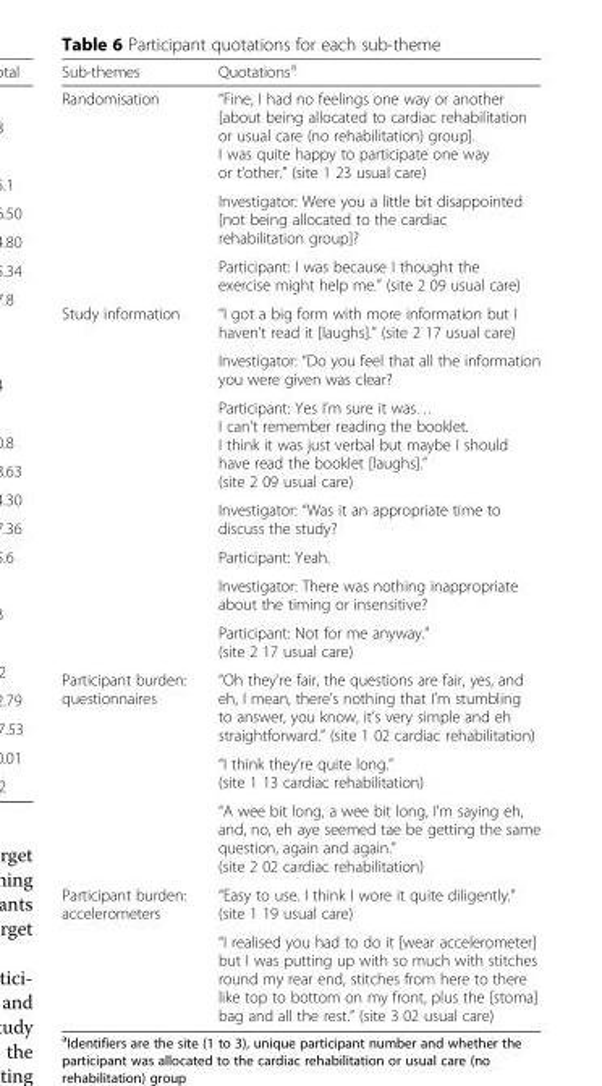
<table><thead><tr><td>Sub-themes</td><td>Quotations<sup>a</sup></td></tr></thead><tbody><tr><td rowspan="3">Randomisation</td><td>“Fine, I had no feelings one way or another [about being allocated to cardiac rehabilitation or usual care (no rehabilitation) group]. I was quite happy to participate one way or t’other.” (site 1 23 usual care)</td></tr><tr><td>Investigator: Were you a little bit disappointed [not being allocated to the cardiac rehabilitation group]?</td></tr><tr><td>Participant: I was because I thought the exercise might help me.” (site 2 09 usual care)</td></tr><tr><td rowspan="7">Study information</td><td>“I got a big form with more information but I haven’t read it [laughs].” (site 2 17 usual care)</td></tr><tr><td>Investigator: “Do you feel that all the information you were given was clear?</td></tr><tr><td>Participant: Yes I’m sure it was… I can’t remember reading the booklet. I think it was just verbal but maybe I should have read the booklet [laughs].” (site 2 09 usual care)</td></tr><tr><td>Investigator: “Was it an appropriate time to discuss the study?</td></tr><tr><td>Participant: Yeah.</td></tr><tr><td>Investigator: There was nothing inappropriate about the timing or insensitive?</td></tr><tr><td>Participant: Not for me anyway.” (site 2 17 usual care)</td></tr><tr><td rowspan="3">Participant burden: questionnaires</td><td>“Oh they’re fair, the questions are fair, yes, and eh, I mean, there’s nothing that I’m stumbling to answer, you know, it’s very simple and eh straightforward.” (site 1 02 cardiac rehabilitation)</td></tr><tr><td>“I think they’re quite long.” (site 1 13 cardiac rehabilitation)</td></tr><tr><td>“A wee bit long, a wee bit long, I&#x27;m saying eh, and, no, eh aye seemed tae be getting the same question, again and again.” (site 2 02 cardiac rehabilitation)</td></tr><tr><td rowspan="2">Participant burden: accelerometers</td><td>“Easy to use. I think I wore it quite diligently.” (site 1 19 usual care)</td></tr><tr><td>“I realised you had to do it [wear accelerometer] but I was putting up with so much with stitches round my rear end, stitches from here to there like top to bottom on my front, plus the [stoma] bag and all the rest.” (site 3 02 usual care)</td></tr></tbody></table>